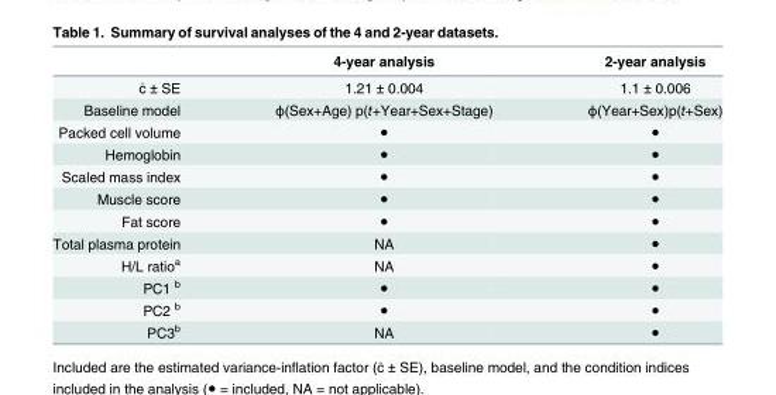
<table><thead><tr><td></td><td>4-year analysis</td><td>2-year analysis</td></tr></thead><tbody><tr><td>c^ ± SE</td><td>1.21 ± 0.004</td><td>1.1 ± 0.006</td></tr><tr><td>Baseline model</td><td>ϕ(Sex+Age) p(t+Year+Sex+Stage)</td><td>ϕ(Year+Sex)p(t+Sex)</td></tr><tr><td>Packed cell volume</td><td>●</td><td>●</td></tr><tr><td>Hemoglobin</td><td>●</td><td>●</td></tr><tr><td>Scaled mass index</td><td>●</td><td>●</td></tr><tr><td>Muscle score</td><td>●</td><td>●</td></tr><tr><td>Fat score</td><td>●</td><td>●</td></tr><tr><td>Total plasma protein</td><td>NA</td><td>●</td></tr><tr><td>H/L ratio<sup>a</sup></td><td>NA</td><td>●</td></tr><tr><td>PC1 <sup>b</sup></td><td>●</td><td>●</td></tr><tr><td>PC2 <sup>b</sup></td><td>●</td><td>●</td></tr><tr><td>PC3<sup>b</sup></td><td>NA</td><td>●</td></tr></tbody></table>